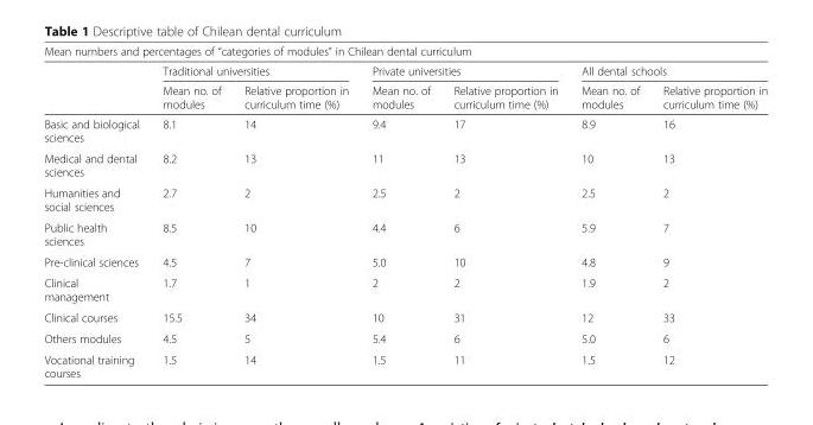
<table><thead><tr><td colspan="7">Mean numbers and percentages of “categories of modules” in Chilean dental curriculum</td></tr><tr><td rowspan="2"></td><td colspan="2">Traditional universities</td><td colspan="2">Private universities</td><td colspan="2">All dental schools</td></tr><tr><td>Mean no. of modules</td><td>Relative proportion in curriculum time (%)</td><td>Mean no. of modules</td><td>Relative proportion in curriculum time (%)</td><td>Mean no. of modules</td><td>Relative proportion in curriculum time (%)</td></tr></thead><tbody><tr><td>Basic and biological sciences</td><td>8.1</td><td>14</td><td>9.4</td><td>17</td><td>8.9</td><td>16</td></tr><tr><td>Medical and dental sciences</td><td>8.2</td><td>13</td><td>11</td><td>13</td><td>10</td><td>13</td></tr><tr><td>Humanities and social sciences</td><td>2.7</td><td>2</td><td>2.5</td><td>2</td><td>2.5</td><td>2</td></tr><tr><td>Public health sciences</td><td>8.5</td><td>10</td><td>4.4</td><td>6</td><td>5.9</td><td>7</td></tr><tr><td>Pre-clinical sciences</td><td>4.5</td><td>7</td><td>5.0</td><td>10</td><td>4.8</td><td>9</td></tr><tr><td>Clinical management</td><td>1.7</td><td>1</td><td>2</td><td>2</td><td>1.9</td><td>2</td></tr><tr><td>Clinical courses</td><td>15.5</td><td>34</td><td>10</td><td>31</td><td>12</td><td>33</td></tr><tr><td>Others modules</td><td>4.5</td><td>5</td><td>5.4</td><td>6</td><td>5.0</td><td>6</td></tr><tr><td>Vocational training courses</td><td>1.5</td><td>14</td><td>1.5</td><td>11</td><td>1.5</td><td>12</td></tr></tbody></table>